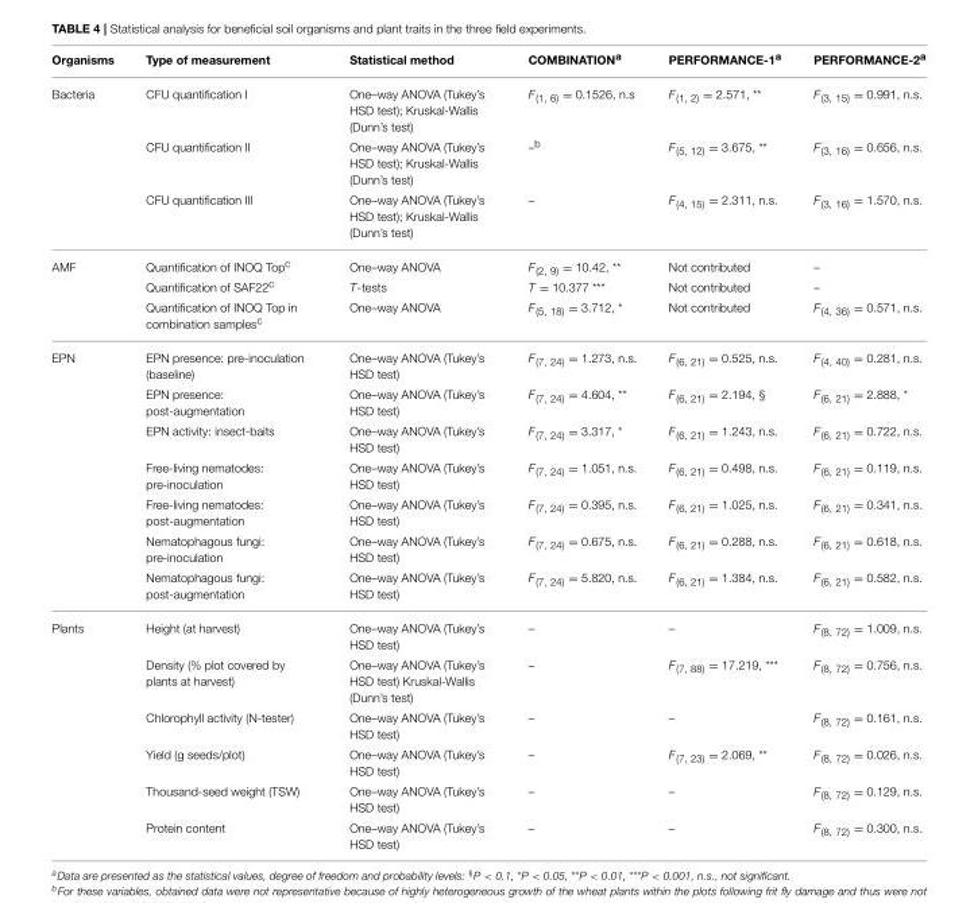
<table><thead><tr><td>Organisms</td><td>Type of measurement</td><td>Statistical method</td><td>COMBINATION<sup>a</sup></td><td>PERFORMANCE-1<sup>a</sup></td><td>PERFORMANCE-2<sup>a</sup></td></tr></thead><tbody><tr><td rowspan="3">Bacteria</td><td>CFU quantification I</td><td>One–way ANOVA (Tukey’s HSD test); Kruskal-Wallis (Dunn’s test)</td><td>F<sub>(1, 6)</sub> = 0.1526, n.s</td><td>F<sub>(1, 2)</sub> = 2.571, **</td><td>F<sub>(3, 15)</sub> = 0.991, n.s.</td></tr><tr><td>CFU quantification II</td><td>One–way ANOVA (Tukey’s HSD test); Kruskal-Wallis (Dunn’s test)</td><td>–<sup>b</sup></td><td>F<sub>(5, 12)</sub> = 3.675, **</td><td>F<sub>(3, 16)</sub> = 0.656, n.s.</td></tr><tr><td>CFU quantification III</td><td>One–way ANOVA (Tukey’s HSD test); Kruskal-Wallis (Dunn’s test)</td><td>–</td><td>F<sub>(4, 15)</sub> = 2.311, n.s.</td><td>F<sub>(3, 16)</sub> = 1.570, n.s.</td></tr><tr><td rowspan="3">AMF</td><td>Quantification of INOQ Top<sup>c</sup></td><td>One–way ANOVA</td><td>F<sub>(2, 9)</sub> = 10.42, **</td><td>Not contributed</td><td>–</td></tr><tr><td>Quantification of SAF22<sup>c</sup></td><td>T-tests</td><td>T = 10.377 ***</td><td>Not contributed</td><td>–</td></tr><tr><td>Quantification of INOQ Top in combination samples<sup>c</sup></td><td>One–way ANOVA</td><td>F<sub>(5, 18)</sub> = 3.712, *</td><td>Not contributed</td><td>F<sub>(4, 36)</sub> = 0.571, n.s.</td></tr><tr><td rowspan="7">EPN</td><td>EPN presence: pre-inoculation (baseline)</td><td>One–way ANOVA (Tukey’s HSD test)</td><td>F<sub>(7, 24)</sub> = 1.273, n.s.</td><td>F<sub>(6, 21)</sub> = 0.525, n.s.</td><td>F<sub>(4, 40)</sub> = 0.281, n.s.</td></tr><tr><td>EPN presence: post-augmentation</td><td>One–way ANOVA (Tukey’s HSD test)</td><td>F<sub>(7, 24)</sub> = 4.604, **</td><td>F<sub>(6, 21)</sub> = 2.194, <sup>§</sup></td><td>F<sub>(6, 21)</sub> = 2.888, *</td></tr><tr><td>EPN activity: insect-baits</td><td>One–way ANOVA (Tukey’s HSD test)</td><td>F<sub>(7, 24)</sub> = 3.317, *</td><td>F<sub>(6, 21)</sub> = 1.243, n.s.</td><td>F<sub>(6, 21)</sub> = 0.722, n.s.</td></tr><tr><td>Free-living nematodes: pre-inoculation</td><td>One–way ANOVA (Tukey’s HSD test)</td><td>F<sub>(7, 24)</sub> = 1.051, n.s.</td><td>F<sub>(6, 21)</sub> = 0.498, n.s.</td><td>F<sub>(6, 21)</sub> = 0.119, n.s.</td></tr><tr><td>Free-living nematodes: post-augmentation</td><td>One–way ANOVA (Tukey’s HSD test)</td><td>F<sub>(7, 24)</sub> = 0.395, n.s.</td><td>F<sub>(6, 21)</sub> = 1.025, n.s.</td><td>F<sub>(6, 21)</sub> = 0.341, n.s.</td></tr><tr><td>Nematophagous fungi: pre-inoculation</td><td>One–way ANOVA (Tukey’s HSD test)</td><td>F<sub>(7, 24)</sub> = 0.675, n.s.</td><td>F<sub>(6, 21)</sub> = 0.288, n.s.</td><td>F<sub>(6, 21)</sub> = 0.618, n.s.</td></tr><tr><td>Nematophagous fungi: post-augmentation</td><td>One–way ANOVA (Tukey’s HSD test)</td><td>F<sub>(7, 24)</sub> = 5.820, n.s.</td><td>F<sub>(6, 21)</sub> = 1.384, n.s.</td><td>F<sub>(6, 21)</sub> = 0.582, n.s.</td></tr><tr><td rowspan="6">Plants</td><td>Height (at harvest)</td><td>One–way ANOVA (Tukey’s HSD test)</td><td>–</td><td>–</td><td>F<sub>(8, 72)</sub> = 1.009, n.s.</td></tr><tr><td>Density (% plot covered by plants at harvest)</td><td>One–way ANOVA (Tukey’s HSD test) Kruskal-Wallis (Dunn’s test)</td><td>–</td><td>F<sub>(7, 88)</sub> = 17.219, ***</td><td>F<sub>(8, 72)</sub> = 0.756, n.s.</td></tr><tr><td>Chlorophyll activity (N-tester)</td><td>One–way ANOVA (Tukey’s HSD test)</td><td>–</td><td>–</td><td>F<sub>(8, 72)</sub> = 0.161, n.s.</td></tr><tr><td>Yield (g seeds/plot)</td><td>One–way ANOVA (Tukey’s HSD test)</td><td>–</td><td>F<sub>(7, 23)</sub> = 2.069, **</td><td>F<sub>(8, 72)</sub> = 0.026, n.s.</td></tr><tr><td>Thousand-seed weight (TSW)</td><td>One–way ANOVA (Tukey’s HSD test)</td><td>–</td><td>–</td><td>F<sub>(8, 72)</sub> = 0.129, n.s.</td></tr><tr><td>Protein content</td><td>One–way ANOVA (Tukey’s HSD test)</td><td>–</td><td>–</td><td>F<sub>(8, 72)</sub> = 0.300, n.s.</td></tr></tbody></table>